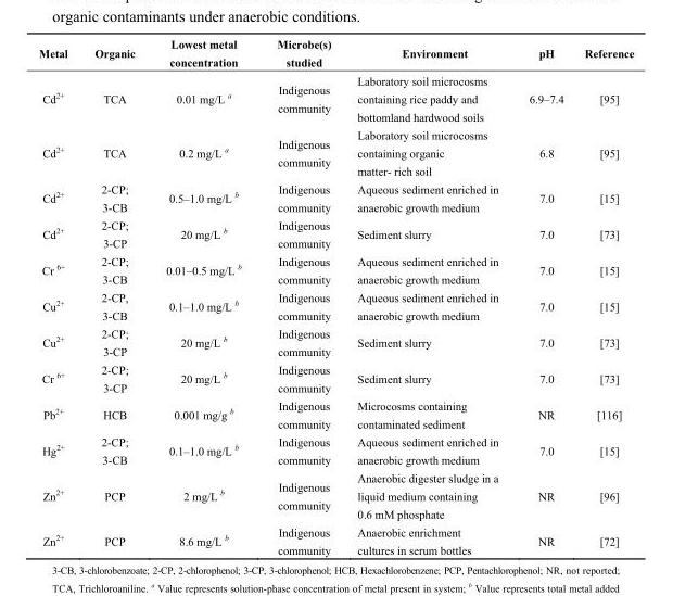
<table><thead><tr><td>Metal</td><td>Organic</td><td>Lowest metal concentration</td><td>Microbe(s) studied</td><td>Environment</td><td>pH</td><td>Reference</td></tr></thead><tbody><tr><td>Cd<sup>2+</sup></td><td>TCA</td><td>0.01 mg/L a</td><td>Indigenous community</td><td>Laboratory soil microcosms containing rice paddy and bottomland hardwood soils</td><td>6.9–7.4</td><td>[95]</td></tr><tr><td>Cd<sup>2+</sup></td><td>TCA</td><td>0.2 mg/L a</td><td>Indigenous community</td><td>Laboratory soil microcosms containing organic matter- rich soil</td><td>6.8</td><td>[95]</td></tr><tr><td>Cd<sup>2+</sup></td><td>2-CP; 3-CB</td><td>0.5–1.0 mg/L b</td><td>Indigenous community</td><td>Aqueous sediment enriched in anaerobic growth medium</td><td>7.0</td><td>[15]</td></tr><tr><td>Cd<sup>2+</sup></td><td>2-CP; 3-CP</td><td>20 mg/L b</td><td>Indigenous community</td><td>Sediment slurry</td><td>7.0</td><td>[73]</td></tr><tr><td>Cr <sup>6+</sup></td><td>2-CP; 3-CB</td><td>0.01–0.5 mg/L b</td><td>Indigenous community</td><td>Aqueous sediment enriched in anaerobic growth medium</td><td>7.0</td><td>[15]</td></tr><tr><td>Cu<sup>2+</sup></td><td>2-CP, 3-CB</td><td>0.1–1.0 mg/L b</td><td>Indigenous community</td><td>Aqueous sediment enriched in anaerobic growth medium</td><td>7.0</td><td>[15]</td></tr><tr><td>Cu<sup>2+</sup></td><td>2-CP; 3-CP</td><td>20 mg/L b</td><td>Indigenous community</td><td>Sediment slurry</td><td>7.0</td><td>[73]</td></tr><tr><td>Cr <sup>6+</sup></td><td>2-CP; 3-CP</td><td>20 mg/L b</td><td>Indigenous community</td><td>Sediment slurry</td><td>7.0</td><td>[73]</td></tr><tr><td>Pb<sup>2+</sup></td><td>HCB</td><td>0.001 mg/g b</td><td>Indigenous community</td><td>Microcosms containing contaminated sediment</td><td>NR</td><td>[116]</td></tr><tr><td>Hg<sup>2+</sup></td><td>2-CP; 3-CB</td><td>0.1–1.0 mg/L b</td><td>Indigenous community</td><td>Aqueous sediment enriched in anaerobic growth medium</td><td>7.0</td><td>[15]</td></tr><tr><td>Zn<sup>2+</sup></td><td>PCP</td><td>2 mg/L b</td><td>Indigenous community</td><td>Anaerobic digester sludge in a liquid medium containing 0.6 mM phosphate</td><td>NR</td><td>[96]</td></tr><tr><td>Zn<sup>2+</sup></td><td>PCP</td><td>8.6 mg/L b</td><td>Indigenous community</td><td>Anaerobic enrichment cultures in serum bottles</td><td>NR</td><td>[72]</td></tr></tbody></table>